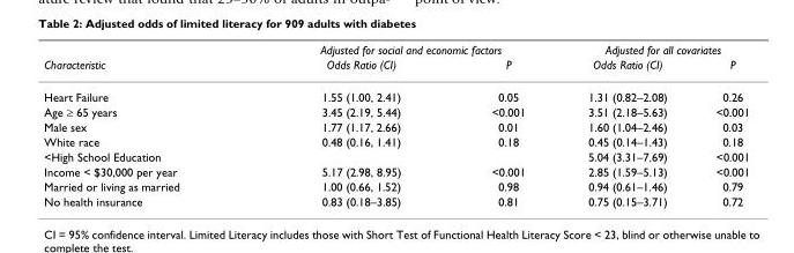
<table><thead><tr><td rowspan="2">Characteristic</td><td colspan="2">Adjusted for social and economic factors</td><td colspan="2">Adjusted for all covariates</td></tr><tr><td>Odds Ratio (CI)</td><td>P</td><td>Odds Ratio (CI)</td><td>P</td></tr></thead><tbody><tr><td>Heart Failure</td><td>1.55 (1.00, 2.41)</td><td>0.05</td><td>1.31 (0.82–2.08)</td><td>0.26</td></tr><tr><td>Age ≥ 65 years</td><td>3.45 (2.19, 5.44)</td><td>&lt;0.001</td><td>3.51 (2.18–5.63)</td><td>&lt;0.001</td></tr><tr><td>Male sex</td><td>1.77 (1.17, 2.66)</td><td>0.01</td><td>1.60 (1.04–2.46)</td><td>0.03</td></tr><tr><td>White race</td><td>0.48 (0.16, 1.41)</td><td>0.18</td><td>0.45 (0.14–1.43)</td><td>0.18</td></tr><tr><td>&lt;High School Education</td><td></td><td></td><td>5.04 (3.31–7.69)</td><td>&lt;0.001</td></tr><tr><td>Income &lt; $30,000 per year</td><td>5.17 (2.98, 8.95)</td><td>&lt;0.001</td><td>2.85 (1.59–5.13)</td><td>&lt;0.001</td></tr><tr><td>Married or living as married</td><td>1.00 (0.66, 1.52)</td><td>0.98</td><td>0.94 (0.61–1.46)</td><td>0.79</td></tr><tr><td>No health insurance</td><td>0.83 (0.18–3.85)</td><td>0.81</td><td>0.75 (0.15–3.71)</td><td>0.72</td></tr></tbody></table>